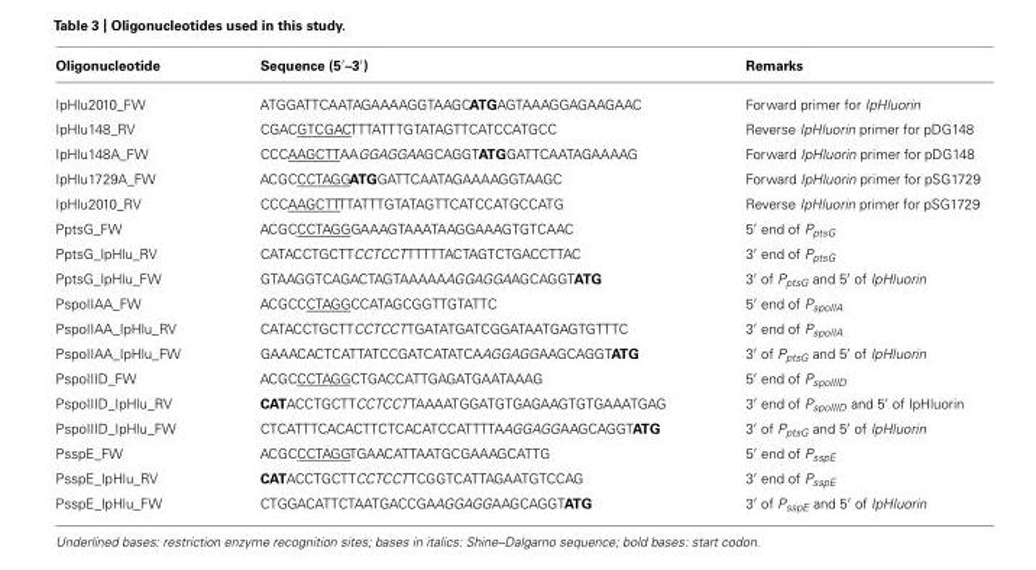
<table><thead><tr><td>Oligonucleotide</td><td>Sequence (5′–3′)</td><td>Remarks</td></tr></thead><tbody><tr><td>IpHlu2010_FW</td><td>ATGGATTCAATAGAAAAGGTAAGCATGAGTAAAGGAGAAGAAC</td><td>Forward primer for IpHluorin</td></tr><tr><td>IpHlu148_RV</td><td>CGACGTCGACTTTATTTGTATAGTTCATCCATGCC</td><td>Reverse IpHluorin primer for pDG148</td></tr><tr><td>IpHlu148A_FW</td><td>CCCAAGCTTAAGGAGGAAGCAGGTATGGATTCAATAGAAAAG</td><td>Forward IpHluorin primer for pDG148</td></tr><tr><td>IpHlu1729A_FW</td><td>ACGCCCTAGGATGGATTCAATAGAAAAGGTAAGC</td><td>Forward IpHluorin primer for pSG1729</td></tr><tr><td>IpHlu2010_RV</td><td>CCCAAGCTTTTATTTGTATAGTTCATCCATGCCATG</td><td>Reverse IpHluorin primer for pSG1729</td></tr><tr><td>PptsG_FW</td><td>ACGCCCTAGGGAAAGTAAATAAGGAAAGTGTCAAC</td><td>5′ end of P<sub>ptsG</sub></td></tr><tr><td>PptsG_IpHlu_RV</td><td>CATACCTGCTTCCTCCTTTTTTACTAGTCTGACCTTAC</td><td>3′ end of P<sub>ptsG</sub></td></tr><tr><td>PptsG_IpHlu_FW</td><td>GTAAGGTCAGACTAGTAAAAAAGGAGGAAGCAGGTATG</td><td>3′ of P<sub>ptsG</sub> and 5′ of IpHluorin</td></tr><tr><td>PspoIIAA_FW</td><td>ACGCCCTAGGCCATAGCGGTTGTATTC</td><td>5′ end of P<sub>spoIIA</sub></td></tr><tr><td>PspoIIAA_IpHlu_RV</td><td>CATACCTGCTTCCTCCTTGATATGATCGGATAATGAGTGTTTC</td><td>3′ end of P<sub>spoIIA</sub></td></tr><tr><td>PspoIIAA_IpHlu_FW</td><td>GAAACACTCATTATCCGATCATATCAAGGAGGAAGCAGGTATG</td><td>3′ of P<sub>ptsG</sub> and 5′ of IpHluorin</td></tr><tr><td>PspoIIID_FW</td><td>ACGCCCTAGGCTGACCATTGAGATGAATAAAG</td><td>5′ end of P<sub>spoIIID</sub></td></tr><tr><td>PspoIIID_IpHlu_RV</td><td>CATACCTGCTTCCTCCTTAAAATGGATGTGAGAAGTGTGAAATGAG</td><td>3′ end of P<sub>spoIIID</sub> and 5′ of IpHluorin</td></tr><tr><td>PspoIIID_IpHlu_FW</td><td>CTCATTTCACACTTCTCACATCCATTTTAAGGAGGAAGCAGGTATG</td><td>3′ of P<sub>ptsG</sub> and 5′ of IpHluorin</td></tr><tr><td>PsspE_FW</td><td>ACGCCCTAGGTGAACATTAATGCGAAAGCATTG</td><td>5′ end of P<sub>sspE</sub></td></tr><tr><td>PsspE_IpHlu_RV</td><td>CATACCTGCTTCCTCCTTCGGTCATTAGAATGTCCAG</td><td>3′ end of P<sub>sspE</sub></td></tr><tr><td>PsspE_IpHlu_FW</td><td>CTGGACATTCTAATGACCGAAGGAGGAAGCAGGTATG</td><td>3′ of P<sub>sspE</sub> and 5′ of IpHluorin</td></tr></tbody></table>